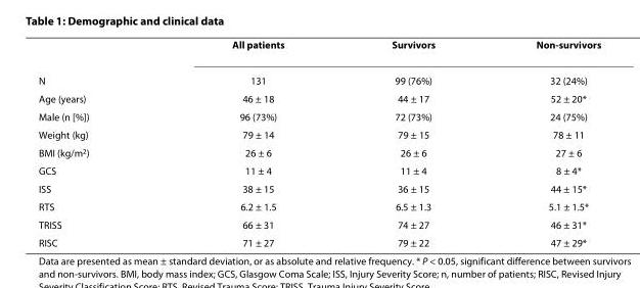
<table><thead><tr><td></td><td>All patients</td><td>Survivors</td><td>Non-survivors</td></tr></thead><tbody><tr><td>N</td><td>131</td><td>99 (76%)</td><td>32 (24%)</td></tr><tr><td>Age (years)</td><td>46 ± 18</td><td>44 ± 17</td><td>52 ± 20*</td></tr><tr><td>Male (n [%])</td><td>96 (73%)</td><td>72 (73%)</td><td>24 (75%)</td></tr><tr><td>Weight (kg)</td><td>79 ± 14</td><td>79 ± 15</td><td>78 ± 11</td></tr><tr><td>BMI (kg/m<sup>2</sup>)</td><td>26 ± 6</td><td>26 ± 6</td><td>27 ± 6</td></tr><tr><td>GCS</td><td>11 ± 4</td><td>11 ± 4</td><td>8 ± 4*</td></tr><tr><td>ISS</td><td>38 ± 15</td><td>36 ± 15</td><td>44 ± 15*</td></tr><tr><td>RTS</td><td>6.2 ± 1.5</td><td>6.5 ± 1.3</td><td>5.1 ± 1.5*</td></tr><tr><td>TRISS</td><td>66 ± 31</td><td>74 ± 27</td><td>46 ± 31*</td></tr><tr><td>RISC</td><td>71 ± 27</td><td>79 ± 22</td><td>47 ± 29*</td></tr></tbody></table>